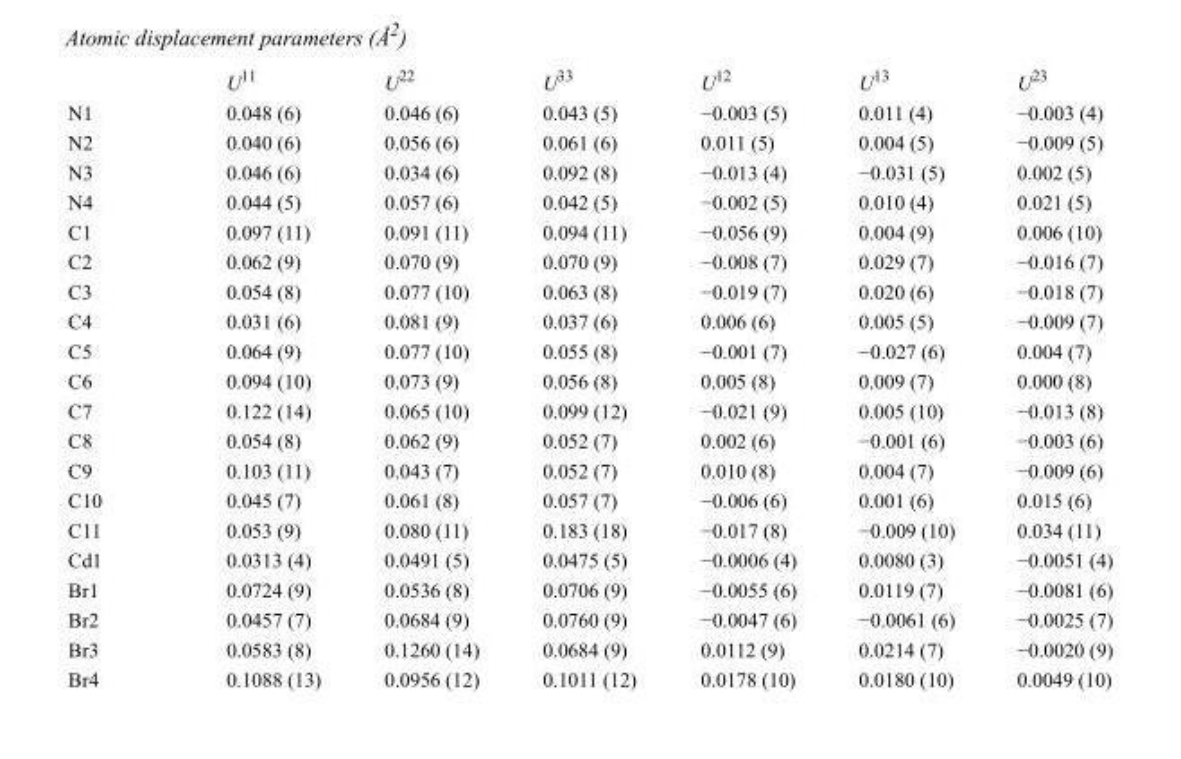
<table><thead><tr><td></td><td>U<sup>11</sup></td><td>U<sup>22</sup></td><td>U<sup>33</sup></td><td>U<sup>12</sup></td><td>U<sup>13</sup></td><td>U<sup>23</sup></td></tr></thead><tbody><tr><td>N1</td><td>0.048 (6)</td><td>0.046 (6)</td><td>0.043 (5)</td><td>−0.003 (5)</td><td>0.011 (4)</td><td>−0.003 (4)</td></tr><tr><td>N2</td><td>0.040 (6)</td><td>0.056 (6)</td><td>0.061 (6)</td><td>0.011 (5)</td><td>0.004 (5)</td><td>−0.009 (5)</td></tr><tr><td>N3</td><td>0.046 (6)</td><td>0.034 (6)</td><td>0.092 (8)</td><td>−0.013 (4)</td><td>−0.031 (5)</td><td>0.002 (5)</td></tr><tr><td>N4</td><td>0.044 (5)</td><td>0.057 (6)</td><td>0.042 (5)</td><td>−0.002 (5)</td><td>0.010 (4)</td><td>0.021 (5)</td></tr><tr><td>C1</td><td>0.097 (11)</td><td>0.091 (11)</td><td>0.094 (11)</td><td>−0.056 (9)</td><td>0.004 (9)</td><td>0.006 (10)</td></tr><tr><td>C2</td><td>0.062 (9)</td><td>0.070 (9)</td><td>0.070 (9)</td><td>−0.008 (7)</td><td>0.029 (7)</td><td>−0.016 (7)</td></tr><tr><td>C3</td><td>0.054 (8)</td><td>0.077 (10)</td><td>0.063 (8)</td><td>−0.019 (7)</td><td>0.020 (6)</td><td>−0.018 (7)</td></tr><tr><td>C4</td><td>0.031 (6)</td><td>0.081 (9)</td><td>0.037 (6)</td><td>0.006 (6)</td><td>0.005 (5)</td><td>−0.009 (7)</td></tr><tr><td>C5</td><td>0.064 (9)</td><td>0.077 (10)</td><td>0.055 (8)</td><td>−0.001 (7)</td><td>−0.027 (6)</td><td>0.004 (7)</td></tr><tr><td>C6</td><td>0.094 (10)</td><td>0.073 (9)</td><td>0.056 (8)</td><td>0.005 (8)</td><td>0.009 (7)</td><td>0.000 (8)</td></tr><tr><td>C7</td><td>0.122 (14)</td><td>0.065 (10)</td><td>0.099 (12)</td><td>−0.021 (9)</td><td>0.005 (10)</td><td>−0.013 (8)</td></tr><tr><td>C8</td><td>0.054 (8)</td><td>0.062 (9)</td><td>0.052 (7)</td><td>0.002 (6)</td><td>−0.001 (6)</td><td>−0.003 (6)</td></tr><tr><td>C9</td><td>0.103 (11)</td><td>0.043 (7)</td><td>0.052 (7)</td><td>0.010 (8)</td><td>0.004 (7)</td><td>−0.009 (6)</td></tr><tr><td>C10</td><td>0.045 (7)</td><td>0.061 (8)</td><td>0.057 (7)</td><td>−0.006 (6)</td><td>0.001 (6)</td><td>0.015 (6)</td></tr><tr><td>C11</td><td>0.053 (9)</td><td>0.080 (11)</td><td>0.183 (18)</td><td>−0.017 (8)</td><td>−0.009 (10)</td><td>0.034 (11)</td></tr><tr><td>Cd1</td><td>0.0313 (4)</td><td>0.0491 (5)</td><td>0.0475 (5)</td><td>−0.0006 (4)</td><td>0.0080 (3)</td><td>−0.0051 (4)</td></tr><tr><td>Br1</td><td>0.0724 (9)</td><td>0.0536 (8)</td><td>0.0706 (9)</td><td>−0.0055 (6)</td><td>0.0119 (7)</td><td>−0.0081 (6)</td></tr><tr><td>Br2</td><td>0.0457 (7)</td><td>0.0684 (9)</td><td>0.0760 (9)</td><td>−0.0047 (6)</td><td>−0.0061 (6)</td><td>−0.0025 (7)</td></tr><tr><td>Br3</td><td>0.0583 (8)</td><td>0.1260 (14)</td><td>0.0684 (9)</td><td>0.0112 (9)</td><td>0.0214 (7)</td><td>−0.0020 (9)</td></tr><tr><td>Br4</td><td>0.1088 (13)</td><td>0.0956 (12)</td><td>0.1011 (12)</td><td>0.0178 (10)</td><td>0.0180 (10)</td><td>0.0049 (10)</td></tr></tbody></table>